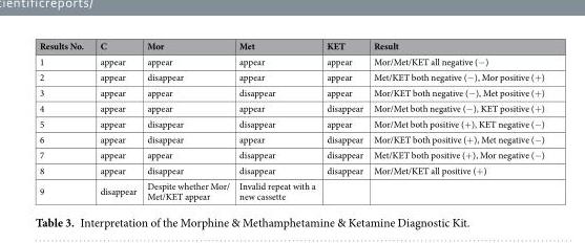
<table><thead><tr><td>Results No.</td><td>C</td><td>Mor</td><td>Met</td><td>KET</td><td>Result</td></tr></thead><tbody><tr><td>1</td><td>appear</td><td>appear</td><td>appear</td><td>appear</td><td>Mor/Met/KET all negative (−)</td></tr><tr><td>2</td><td>appear</td><td>disappear</td><td>appear</td><td>appear</td><td>Met/KET both negative (−), Mor positive (+)</td></tr><tr><td>3</td><td>appear</td><td>appear</td><td>disappear</td><td>appear</td><td>Mor/KET both negative (−), Met positive (+)</td></tr><tr><td>4</td><td>appear</td><td>appear</td><td>appear</td><td>disappear</td><td>Mor/Met both negative (−), KET positive (+)</td></tr><tr><td>5</td><td>appear</td><td>disappear</td><td>disappear</td><td>appear</td><td>Mor/Met both positive (+), KET negative (−)</td></tr><tr><td>6</td><td>appear</td><td>disappear</td><td>appear</td><td>disappear</td><td>Mor/KET both positive (+), Met negative (−)</td></tr><tr><td>7</td><td>appear</td><td>appear</td><td>disappear</td><td>disappear</td><td>Met/KET both positive (+), Mor negative (−)</td></tr><tr><td>8</td><td>appear</td><td>disappear</td><td>disappear</td><td>disappear</td><td>Mor/Met/KET all positive (+)</td></tr><tr><td>9</td><td>disappear</td><td>Despite whether Mor/ Met/KET appear</td><td>Invalid repeat with a new cassette</td><td></td><td></td></tr></tbody></table>